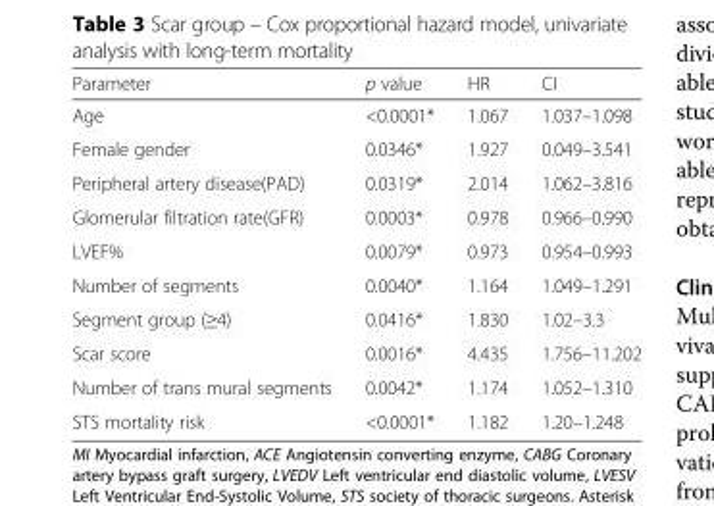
<table><thead><tr><td>Parameter</td><td>p value</td><td>HR</td><td>CI</td></tr></thead><tbody><tr><td>Age</td><td>&lt;0.0001*</td><td>1.067</td><td>1.037–1.098</td></tr><tr><td>Female gender</td><td>0.0346*</td><td>1.927</td><td>0.049–3.541</td></tr><tr><td>Peripheral artery disease(PAD)</td><td>0.0319*</td><td>2.014</td><td>1.062–3.816</td></tr><tr><td>Glomerular filtration rate(GFR)</td><td>0.0003*</td><td>0.978</td><td>0.966–0.990</td></tr><tr><td>LVEF%</td><td>0.0079*</td><td>0.973</td><td>0.954–0.993</td></tr><tr><td>Number of segments</td><td>0.0040*</td><td>1.164</td><td>1.049–1.291</td></tr><tr><td>Segment group (≥4)</td><td>0.0416*</td><td>1.830</td><td>1.02–3.3</td></tr><tr><td>Scar score</td><td>0.0016*</td><td>4.435</td><td>1.756–11.202</td></tr><tr><td>Number of trans mural segments</td><td>0.0042*</td><td>1.174</td><td>1.052–1.310</td></tr><tr><td>STS mortality risk</td><td>&lt;0.0001*</td><td>1.182</td><td>1.20–1.248</td></tr></tbody></table>